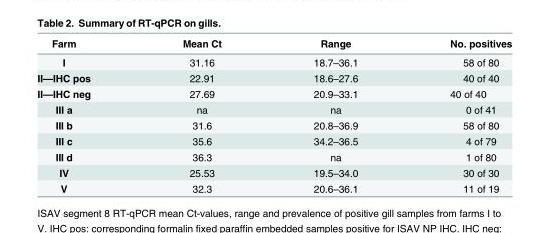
<table><thead><tr><td>Farm</td><td>Mean Ct</td><td>Range</td><td>No. positives</td></tr></thead><tbody><tr><td>I</td><td>31.16</td><td>18.7–36.1</td><td>58 of 80</td></tr><tr><td>II—IHC pos</td><td>22.91</td><td>18.6–27.6</td><td>40 of 40</td></tr><tr><td>II—IHC neg</td><td>27.69</td><td>20.9–33.1</td><td>40 of 40</td></tr><tr><td>III a</td><td>na</td><td>na</td><td>0 of 41</td></tr><tr><td>III b</td><td>31.6</td><td>20.8–36.9</td><td>58 of 80</td></tr><tr><td>III c</td><td>35.6</td><td>34.2–36.5</td><td>4 of 79</td></tr><tr><td>III d</td><td>36.3</td><td>na</td><td>1 of 80</td></tr><tr><td>IV</td><td>25.53</td><td>19.5–34.0</td><td>30 of 30</td></tr><tr><td>V</td><td>32.3</td><td>20.6–36.1</td><td>11 of 19</td></tr></tbody></table>